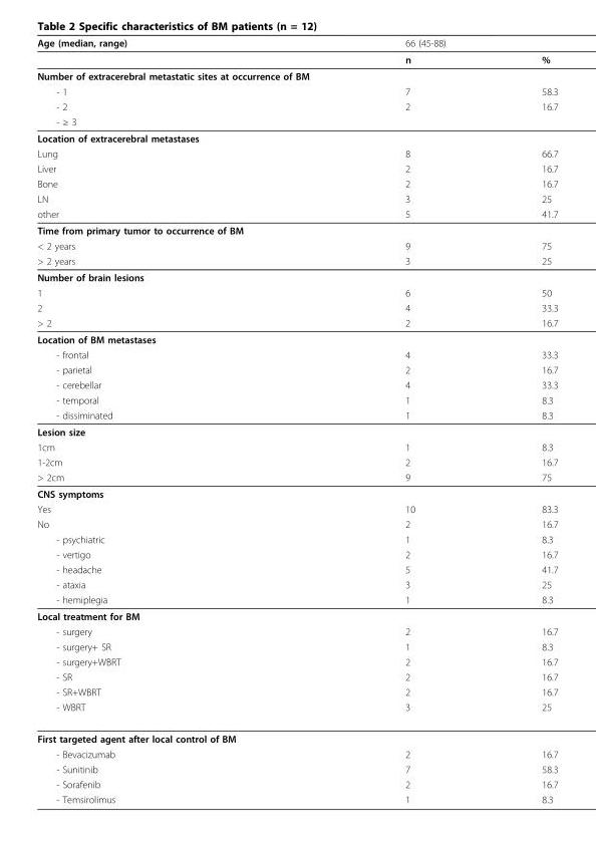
<table><thead><tr><td>Age (median, range)</td><td>66 (45-88)</td><td></td></tr></thead><tbody><tr><td></td><td>n</td><td>%</td></tr><tr><td colspan="3">Number of extracerebral metastatic sites at occurrence of BM</td></tr><tr><td>- 1</td><td>7</td><td>58.3</td></tr><tr><td>- 2</td><td>2</td><td>16.7</td></tr><tr><td colspan="3">- ≥ 3</td></tr><tr><td colspan="3">Location of extracerebral metastases</td></tr><tr><td>Lung</td><td>8</td><td>66.7</td></tr><tr><td>Liver</td><td>2</td><td>16.7</td></tr><tr><td>Bone</td><td>2</td><td>16.7</td></tr><tr><td>LN</td><td>3</td><td>25</td></tr><tr><td>other</td><td>5</td><td>41.7</td></tr><tr><td colspan="3">Time from primary tumor to occurrence of BM</td></tr><tr><td>&lt; 2 years</td><td>9</td><td>75</td></tr><tr><td>&gt; 2 years</td><td>3</td><td>25</td></tr><tr><td colspan="3">Number of brain lesions</td></tr><tr><td>1</td><td>6</td><td>50</td></tr><tr><td>2</td><td>4</td><td>33.3</td></tr><tr><td>&gt; 2</td><td>2</td><td>16.7</td></tr><tr><td colspan="3">Location of BM metastases</td></tr><tr><td>- frontal</td><td>4</td><td>33.3</td></tr><tr><td>- parietal</td><td>2</td><td>16.7</td></tr><tr><td>- cerebellar</td><td>4</td><td>33.3</td></tr><tr><td>- temporal</td><td>1</td><td>8.3</td></tr><tr><td>- dissiminated</td><td>1</td><td>8.3</td></tr><tr><td colspan="3">Lesion size</td></tr><tr><td>1cm</td><td>1</td><td>8.3</td></tr><tr><td>1-2cm</td><td>2</td><td>16.7</td></tr><tr><td>&gt; 2cm</td><td>9</td><td>75</td></tr><tr><td colspan="3">CNS symptoms</td></tr><tr><td>Yes</td><td>10</td><td>83.3</td></tr><tr><td>No</td><td>2</td><td>16.7</td></tr><tr><td>- psychiatric</td><td>1</td><td>8.3</td></tr><tr><td>- vertigo</td><td>2</td><td>16.7</td></tr><tr><td>- headache</td><td>5</td><td>41.7</td></tr><tr><td>- ataxia</td><td>3</td><td>25</td></tr><tr><td>- hemiplegia</td><td>1</td><td>8.3</td></tr><tr><td colspan="3">Local treatment for BM</td></tr><tr><td>- surgery</td><td>2</td><td>16.7</td></tr><tr><td>- surgery+ SR</td><td>1</td><td>8.3</td></tr><tr><td>- surgery+WBRT</td><td>2</td><td>16.7</td></tr><tr><td>- SR</td><td>2</td><td>16.7</td></tr><tr><td>- SR+WBRT</td><td>2</td><td>16.7</td></tr><tr><td>- WBRT</td><td>3</td><td>25</td></tr><tr><td colspan="3">First targeted agent after local control of BM</td></tr><tr><td>- Bevacizumab</td><td>2</td><td>16.7</td></tr><tr><td>- Sunitinib</td><td>7</td><td>58.3</td></tr><tr><td>- Sorafenib</td><td>2</td><td>16.7</td></tr><tr><td>- Temsirolimus</td><td>1</td><td>8.3</td></tr></tbody></table>